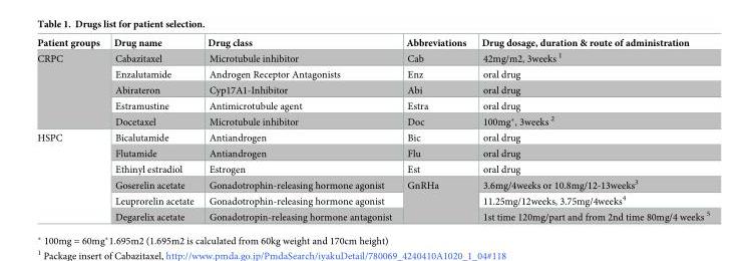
<table><thead><tr><td>Patient groups</td><td>Drug name</td><td>Drug class</td><td>Abbreviations</td><td>Drug dosage, duration &amp; route of administration</td></tr></thead><tbody><tr><td rowspan="5">CRPC</td><td>Cabazitaxel</td><td>Microtubule inhibitor</td><td>Cab</td><td>42mg/m2, 3weeks <sup>1</sup></td></tr><tr><td>Enzalutamide</td><td>Androgen Receptor Antagonists</td><td>Enz</td><td>oral drug</td></tr><tr><td>Abirateron</td><td>Cyp17A1-Inhibitor</td><td>Abi</td><td>oral drug</td></tr><tr><td>Estramustine</td><td>Antimicrotubule agent</td><td>Estra</td><td>oral drug</td></tr><tr><td>Docetaxel</td><td>Microtubule inhibitor</td><td>Doc</td><td>100mg*, 3weeks <sup>2</sup></td></tr><tr><td rowspan="6">HSPC</td><td>Bicalutamide</td><td>Antiandrogen</td><td>Bic</td><td>oral drug</td></tr><tr><td>Flutamide</td><td>Antiandrogen</td><td>Flu</td><td>oral drug</td></tr><tr><td>Ethinyl estradiol</td><td>Estrogen</td><td>Est</td><td>oral drug</td></tr><tr><td>Goserelin acetate</td><td>Gonadotrophin-releasing hormone agonist</td><td rowspan="3">GnRHa</td><td>3.6mg/4weeks or 10.8mg/12-13weeks<sup>3</sup></td></tr><tr><td>Leuprorelin acetate</td><td>Gonadotrophin-releasing hormone agonist</td><td>11.25mg/12weeks, 3.75mg/4weeks<sup>4</sup></td></tr><tr><td>Degarelix acetate</td><td>Gonadotropin-releasing hormone antagonist</td><td>1st time 120mg/part and from 2nd time 80mg/4 weeks <sup>5</sup></td></tr></tbody></table>